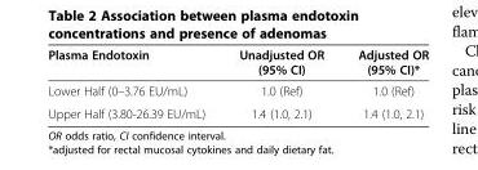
<table><thead><tr><td>Plasma Endotoxin</td><td>Unadjusted OR (95% CI)</td><td>Adjusted OR (95% CI)*</td></tr></thead><tbody><tr><td>Lower Half (0–3.76 EU/mL)</td><td>1.0 (Ref)</td><td>1.0 (Ref)</td></tr><tr><td>Upper Half (3.80-26.39 EU/mL)</td><td>1.4 (1.0, 2.1)</td><td>1.4 (1.0, 2.1)</td></tr></tbody></table>